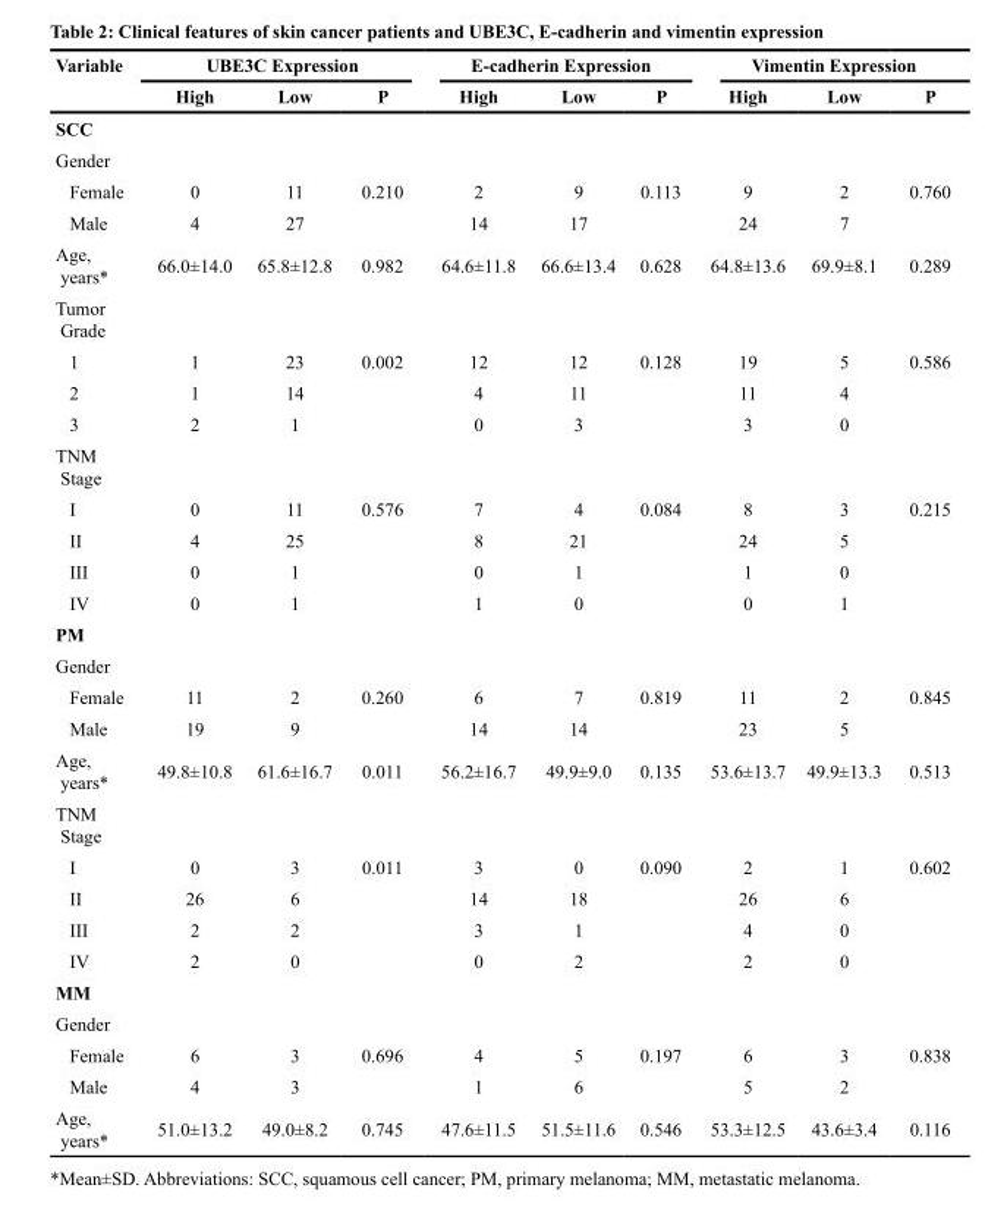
<table><thead><tr><td rowspan="2">Variable</td><td colspan="3">UBE3C Expression</td><td colspan="3">E-cadherin Expression</td><td colspan="3">Vimentin Expression</td></tr><tr><td>High</td><td>Low</td><td>P</td><td>High</td><td>Low</td><td>P</td><td>High</td><td>Low</td><td>P</td></tr></thead><tbody><tr><td colspan="10">SCC</td></tr><tr><td colspan="10">Gender</td></tr><tr><td>Female</td><td>0</td><td>11</td><td>0.210</td><td>2</td><td>9</td><td>0.113</td><td>9</td><td>2</td><td>0.760</td></tr><tr><td>Male</td><td>4</td><td>27</td><td></td><td>14</td><td>17</td><td></td><td>24</td><td>7</td><td></td></tr><tr><td>Age, years*</td><td>66.0±14.0</td><td>65.8±12.8</td><td>0.982</td><td>64.6±11.8</td><td>66.6±13.4</td><td>0.628</td><td>64.8±13.6</td><td>69.9±8.1</td><td>0.289</td></tr><tr><td colspan="10">Tumor Grade</td></tr><tr><td>1</td><td>1</td><td>23</td><td>0.002</td><td>12</td><td>12</td><td>0.128</td><td>19</td><td>5</td><td>0.586</td></tr><tr><td>2</td><td>1</td><td>14</td><td></td><td>4</td><td>11</td><td></td><td>11</td><td>4</td><td></td></tr><tr><td>3</td><td>2</td><td>1</td><td></td><td>0</td><td>3</td><td></td><td>3</td><td>0</td><td></td></tr><tr><td colspan="10">TNM Stage</td></tr><tr><td>I</td><td>0</td><td>11</td><td>0.576</td><td>7</td><td>4</td><td>0.084</td><td>8</td><td>3</td><td>0.215</td></tr><tr><td>II</td><td>4</td><td>25</td><td></td><td>8</td><td>21</td><td></td><td>24</td><td>5</td><td></td></tr><tr><td>III</td><td>0</td><td>1</td><td></td><td>0</td><td>1</td><td></td><td>1</td><td>0</td><td></td></tr><tr><td>IV</td><td>0</td><td>1</td><td></td><td>1</td><td>0</td><td></td><td>0</td><td>1</td><td></td></tr><tr><td colspan="10">PM</td></tr><tr><td colspan="10">Gender</td></tr><tr><td>Female</td><td>11</td><td>2</td><td>0.260</td><td>6</td><td>7</td><td>0.819</td><td>11</td><td>2</td><td>0.845</td></tr><tr><td>Male</td><td>19</td><td>9</td><td></td><td>14</td><td>14</td><td></td><td>23</td><td>5</td><td></td></tr><tr><td>Age, years*</td><td>49.8±10.8</td><td>61.6±16.7</td><td>0.011</td><td>56.2±16.7</td><td>49.9±9.0</td><td>0.135</td><td>53.6±13.7</td><td>49.9±13.3</td><td>0.513</td></tr><tr><td colspan="10">TNM Stage</td></tr><tr><td>I</td><td>0</td><td>3</td><td>0.011</td><td>3</td><td>0</td><td>0.090</td><td>2</td><td>1</td><td>0.602</td></tr><tr><td>II</td><td>26</td><td>6</td><td></td><td>14</td><td>18</td><td></td><td>26</td><td>6</td><td></td></tr><tr><td>III</td><td>2</td><td>2</td><td></td><td>3</td><td>1</td><td></td><td>4</td><td>0</td><td></td></tr><tr><td>IV</td><td>2</td><td>0</td><td></td><td>0</td><td>2</td><td></td><td>2</td><td>0</td><td></td></tr><tr><td colspan="10">MM</td></tr><tr><td colspan="10">Gender</td></tr><tr><td>Female</td><td>6</td><td>3</td><td>0.696</td><td>4</td><td>5</td><td>0.197</td><td>6</td><td>3</td><td>0.838</td></tr><tr><td>Male</td><td>4</td><td>3</td><td></td><td>1</td><td>6</td><td></td><td>5</td><td>2</td><td></td></tr><tr><td>Age, years*</td><td>51.0±13.2</td><td>49.0±8.2</td><td>0.745</td><td>47.6±11.5</td><td>51.5±11.6</td><td>0.546</td><td>53.3±12.5</td><td>43.6±3.4</td><td>0.116</td></tr></tbody></table>